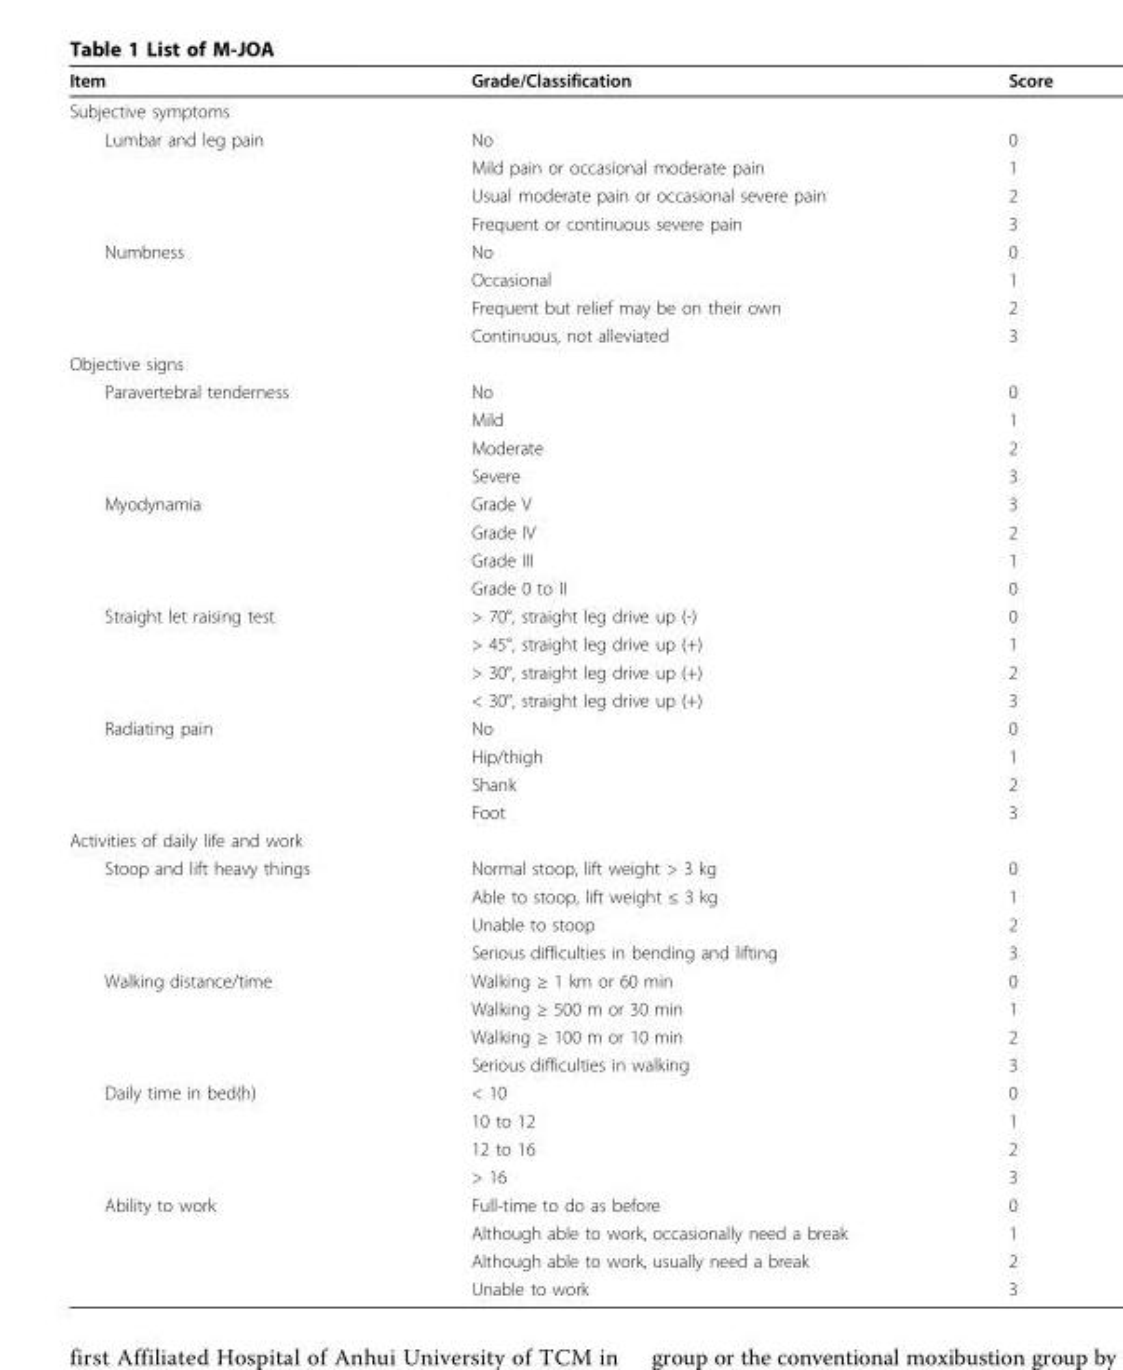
<table><thead><tr><td>Item</td><td>Grade/Classification</td><td>Score</td></tr></thead><tbody><tr><td colspan="3">Subjective symptoms</td></tr><tr><td rowspan="4">Lumbar and leg pain</td><td>No</td><td>0</td></tr><tr><td>Mild pain or occasional moderate pain</td><td>1</td></tr><tr><td>Usual moderate pain or occasional severe pain</td><td>2</td></tr><tr><td>Frequent or continuous severe pain</td><td>3</td></tr><tr><td rowspan="4">Numbness</td><td>No</td><td>0</td></tr><tr><td>Occasional</td><td>1</td></tr><tr><td>Frequent but relief may be on their own</td><td>2</td></tr><tr><td>Continuous, not alleviated</td><td>3</td></tr><tr><td colspan="3">Objective signs</td></tr><tr><td rowspan="4">Paravertebral tenderness</td><td>No</td><td>0</td></tr><tr><td>Mild</td><td>1</td></tr><tr><td>Moderate</td><td>2</td></tr><tr><td>Severe</td><td>3</td></tr><tr><td rowspan="4">Myodynamia</td><td>Grade V</td><td>3</td></tr><tr><td>Grade IV</td><td>2</td></tr><tr><td>Grade III</td><td>1</td></tr><tr><td>Grade 0 to II</td><td>0</td></tr><tr><td rowspan="4">Straight let raising test</td><td>&gt; 70°, straight leg drive up (-)</td><td>0</td></tr><tr><td>&gt; 45°, straight leg drive up (+)</td><td>1</td></tr><tr><td>&gt; 30°, straight leg drive up (+)</td><td>2</td></tr><tr><td>&lt; 30°, straight leg drive up (+)</td><td>3</td></tr><tr><td rowspan="4">Radiating pain</td><td>No</td><td>0</td></tr><tr><td>Hip/thigh</td><td>1</td></tr><tr><td>Shank</td><td>2</td></tr><tr><td>Foot</td><td>3</td></tr><tr><td colspan="3">Activities of daily life and work</td></tr><tr><td rowspan="4">Stoop and lift heavy things</td><td>Normal stoop, lift weight &gt; 3 kg</td><td>0</td></tr><tr><td>Able to stoop, lift weight ≤ 3 kg</td><td>1</td></tr><tr><td>Unable to stoop</td><td>2</td></tr><tr><td>Serious difficulties in bending and lifting</td><td>3</td></tr><tr><td rowspan="4">Walking distance/time</td><td>Walking ≥ 1 km or 60 min</td><td>0</td></tr><tr><td>Walking ≥ 500 m or 30 min</td><td>1</td></tr><tr><td>Walking ≥ 100 m or 10 min</td><td>2</td></tr><tr><td>Serious difficulties in walking</td><td>3</td></tr><tr><td rowspan="4">Daily time in bed(h)</td><td>&lt; 10</td><td>0</td></tr><tr><td>10 to 12</td><td>1</td></tr><tr><td>12 to 16</td><td>2</td></tr><tr><td>&gt; 16</td><td>3</td></tr><tr><td rowspan="4">Ability to work</td><td>Full-time to do as before</td><td>0</td></tr><tr><td>Although able to work, occasionally need a break</td><td>1</td></tr><tr><td>Although able to work, usually need a break</td><td>2</td></tr><tr><td>Unable to work</td><td>3</td></tr></tbody></table>